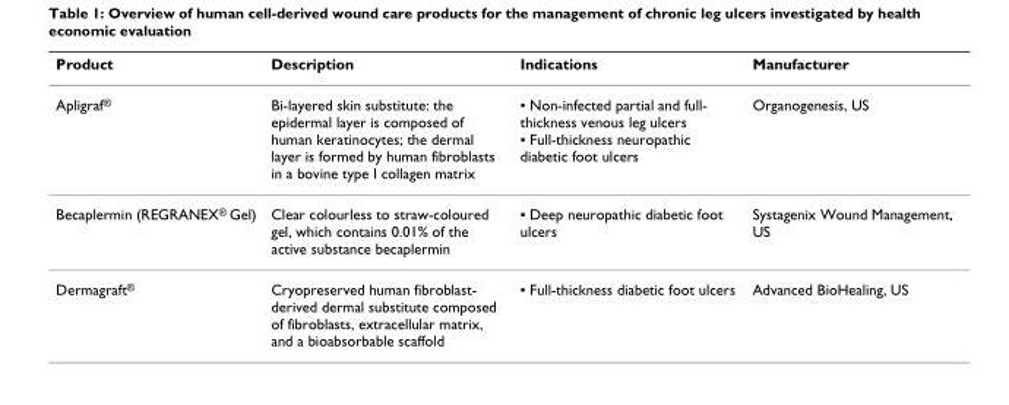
<table><thead><tr><td>Product</td><td>Description</td><td>Indications</td><td>Manufacturer</td></tr></thead><tbody><tr><td>Apligraf<sup>®</sup></td><td>Bi-layered skin substitute: the epidermal layer is composed of human keratinocytes; the dermal layer is formed by human fibroblasts in a bovine type I collagen matrix</td><td>▪ Non-infected partial and full- thickness venous leg ulcers ▪ Full-thickness neuropathic diabetic foot ulcers</td><td>Organogenesis, US</td></tr><tr><td>Becaplermin (REGRANEX<sup>®</sup> Gel)</td><td>Clear colourless to straw-coloured gel, which contains 0.01% of the active substance becaplermin</td><td>▪ Deep neuropathic diabetic foot ulcers</td><td>Systagenix Wound Management, US</td></tr><tr><td>Dermagraft<sup>®</sup></td><td>Cryopreserved human fibroblast- derived dermal substitute composed of fibroblasts, extracellular matrix, and a bioabsorbable scaffold</td><td>▪ Full-thickness diabetic foot ulcers</td><td>Advanced BioHealing, US</td></tr></tbody></table>